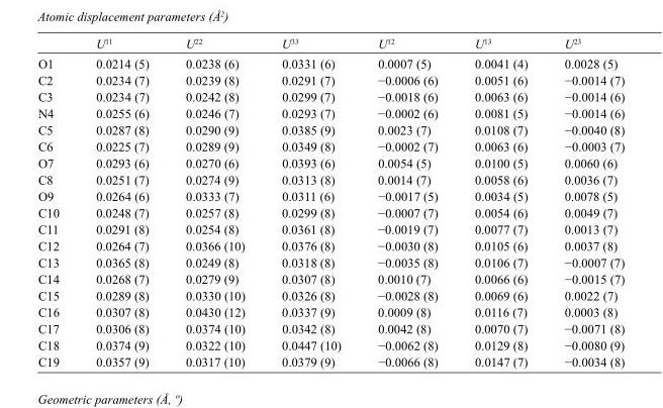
<table><thead><tr><td></td><td>U<sup>11</sup></td><td>U<sup>22</sup></td><td>U<sup>33</sup></td><td>U<sup>12</sup></td><td>U<sup>13</sup></td><td>U<sup>23</sup></td></tr></thead><tbody><tr><td>O1</td><td>0.0214 (5)</td><td>0.0238 (6)</td><td>0.0331 (6)</td><td>0.0007 (5)</td><td>0.0041 (4)</td><td>0.0028 (5)</td></tr><tr><td>C2</td><td>0.0234 (7)</td><td>0.0239 (8)</td><td>0.0291 (7)</td><td>−0.0006 (6)</td><td>0.0051 (6)</td><td>−0.0014 (7)</td></tr><tr><td>C3</td><td>0.0234 (7)</td><td>0.0242 (8)</td><td>0.0299 (7)</td><td>−0.0018 (6)</td><td>0.0063 (6)</td><td>−0.0014 (6)</td></tr><tr><td>N4</td><td>0.0255 (6)</td><td>0.0246 (7)</td><td>0.0293 (7)</td><td>−0.0002 (6)</td><td>0.0081 (5)</td><td>−0.0014 (6)</td></tr><tr><td>C5</td><td>0.0287 (8)</td><td>0.0290 (9)</td><td>0.0385 (9)</td><td>0.0023 (7)</td><td>0.0108 (7)</td><td>−0.0040 (8)</td></tr><tr><td>C6</td><td>0.0225 (7)</td><td>0.0289 (9)</td><td>0.0349 (8)</td><td>−0.0002 (7)</td><td>0.0063 (6)</td><td>−0.0003 (7)</td></tr><tr><td>O7</td><td>0.0293 (6)</td><td>0.0270 (6)</td><td>0.0393 (6)</td><td>0.0054 (5)</td><td>0.0100 (5)</td><td>0.0060 (6)</td></tr><tr><td>C8</td><td>0.0251 (7)</td><td>0.0274 (9)</td><td>0.0313 (8)</td><td>0.0014 (7)</td><td>0.0058 (6)</td><td>0.0036 (7)</td></tr><tr><td>O9</td><td>0.0264 (6)</td><td>0.0333 (7)</td><td>0.0311 (6)</td><td>−0.0017 (5)</td><td>0.0034 (5)</td><td>0.0078 (5)</td></tr><tr><td>C10</td><td>0.0248 (7)</td><td>0.0257 (8)</td><td>0.0299 (8)</td><td>−0.0007 (7)</td><td>0.0054 (6)</td><td>0.0049 (7)</td></tr><tr><td>C11</td><td>0.0291 (8)</td><td>0.0254 (8)</td><td>0.0361 (8)</td><td>−0.0019 (7)</td><td>0.0077 (7)</td><td>0.0013 (7)</td></tr><tr><td>C12</td><td>0.0264 (7)</td><td>0.0366 (10)</td><td>0.0376 (8)</td><td>−0.0030 (8)</td><td>0.0105 (6)</td><td>0.0037 (8)</td></tr><tr><td>C13</td><td>0.0365 (8)</td><td>0.0249 (8)</td><td>0.0318 (8)</td><td>−0.0035 (8)</td><td>0.0106 (7)</td><td>−0.0007 (7)</td></tr><tr><td>C14</td><td>0.0268 (7)</td><td>0.0279 (9)</td><td>0.0307 (8)</td><td>0.0010 (7)</td><td>0.0066 (6)</td><td>−0.0015 (7)</td></tr><tr><td>C15</td><td>0.0289 (8)</td><td>0.0330 (10)</td><td>0.0326 (8)</td><td>−0.0028 (8)</td><td>0.0069 (6)</td><td>0.0022 (7)</td></tr><tr><td>C16</td><td>0.0307 (8)</td><td>0.0430 (12)</td><td>0.0337 (9)</td><td>0.0009 (8)</td><td>0.0116 (7)</td><td>0.0003 (8)</td></tr><tr><td>C17</td><td>0.0306 (8)</td><td>0.0374 (10)</td><td>0.0342 (8)</td><td>0.0042 (8)</td><td>0.0070 (7)</td><td>−0.0071 (8)</td></tr><tr><td>C18</td><td>0.0374 (9)</td><td>0.0322 (10)</td><td>0.0447 (10)</td><td>−0.0062 (8)</td><td>0.0129 (8)</td><td>−0.0080 (9)</td></tr><tr><td>C19</td><td>0.0357 (9)</td><td>0.0317 (10)</td><td>0.0379 (9)</td><td>−0.0066 (8)</td><td>0.0147 (7)</td><td>−0.0034 (8)</td></tr></tbody></table>